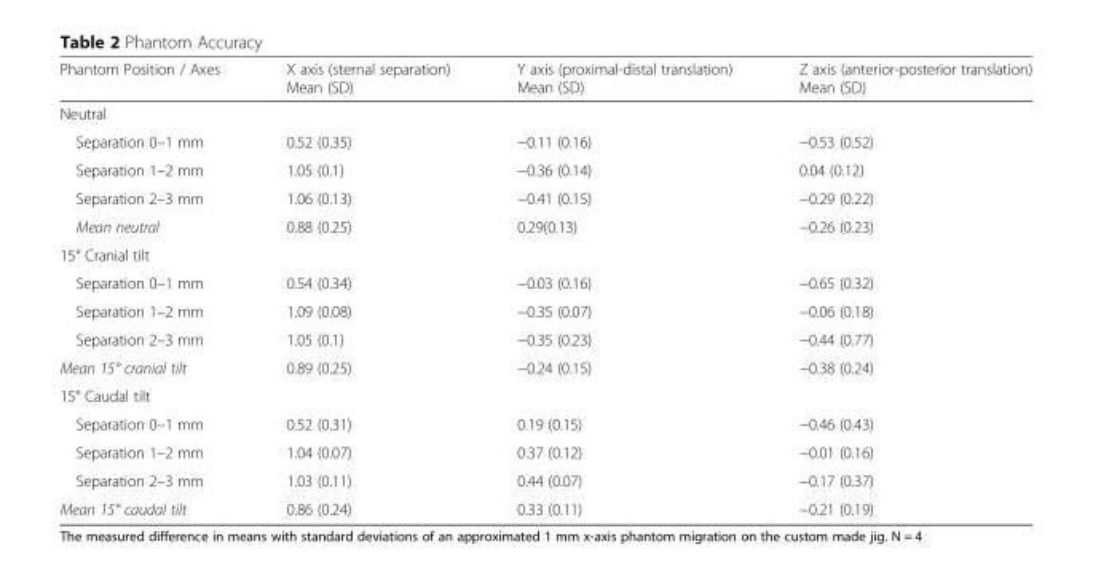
<table><thead><tr><td>Phantom Position / Axes</td><td>X axis (sternal separation) Mean (SD)</td><td>Y axis (proximal-distal translation) Mean (SD)</td><td>Z axis (anterior-posterior translation) Mean (SD)</td></tr></thead><tbody><tr><td colspan="4">Neutral</td></tr><tr><td>Separation 0–1 mm</td><td>0.52 (0.35)</td><td>−0.11 (0.16)</td><td>−0.53 (0.52)</td></tr><tr><td>Separation 1–2 mm</td><td>1.05 (0.1)</td><td>−0.36 (0.14)</td><td>0.04 (0.12)</td></tr><tr><td>Separation 2–3 mm</td><td>1.06 (0.13)</td><td>−0.41 (0.15)</td><td>−0.29 (0.22)</td></tr><tr><td>Mean neutral</td><td>0.88 (0.25)</td><td>0.29(0.13)</td><td>−0.26 (0.23)</td></tr><tr><td colspan="4">15° Cranial tilt</td></tr><tr><td>Separation 0–1 mm</td><td>0.54 (0.34)</td><td>−0.03 (0.16)</td><td>−0.65 (0.32)</td></tr><tr><td>Separation 1–2 mm</td><td>1.09 (0.08)</td><td>−0.35 (0.07)</td><td>−0.06 (0.18)</td></tr><tr><td>Separation 2–3 mm</td><td>1.05 (0.1)</td><td>−0.35 (0.23)</td><td>−0.44 (0.77)</td></tr><tr><td>Mean 15° cranial tilt</td><td>0.89 (0.25)</td><td>−0.24 (0.15)</td><td>−0.38 (0.24)</td></tr><tr><td colspan="4">15° Caudal tilt</td></tr><tr><td>Separation 0–1 mm</td><td>0.52 (0.31)</td><td>0.19 (0.15)</td><td>−0.46 (0.43)</td></tr><tr><td>Separation 1–2 mm</td><td>1.04 (0.07)</td><td>0.37 (0.12)</td><td>−0.01 (0.16)</td></tr><tr><td>Separation 2–3 mm</td><td>1.03 (0.11)</td><td>0.44 (0.07)</td><td>−0.17 (0.37)</td></tr><tr><td>Mean 15° caudal tilt</td><td>0.86 (0.24)</td><td>0.33 (0.11)</td><td>−0.21 (0.19)</td></tr></tbody></table>